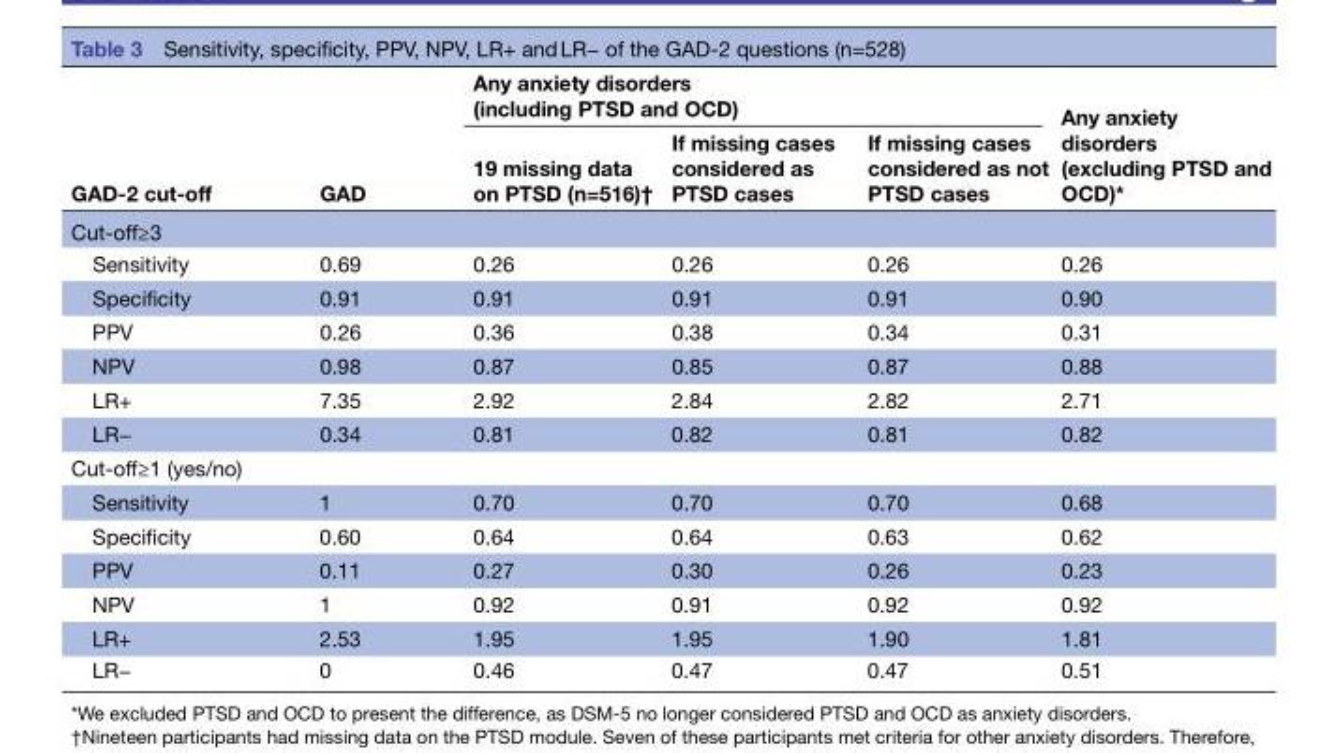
<table><thead><tr><td rowspan="2">GAD-2 cut-off</td><td rowspan="2">GAD</td><td colspan="3">Any anxiety disorders (including PTSD and OCD)</td><td rowspan="2">Any anxiety disorders (excluding PTSD and OCD)*</td></tr><tr><td>19 missing data on PTSD (n=516)†</td><td>If missing cases considered as PTSD cases</td><td>If missing cases considered as not PTSD cases</td></tr></thead><tbody><tr><td colspan="6">Cut-off≥3</td></tr><tr><td>Sensitivity</td><td>0.69</td><td>0.26</td><td>0.26</td><td>0.26</td><td>0.26</td></tr><tr><td>Specificity</td><td>0.91</td><td>0.91</td><td>0.91</td><td>0.91</td><td>0.90</td></tr><tr><td>PPV</td><td>0.26</td><td>0.36</td><td>0.38</td><td>0.34</td><td>0.31</td></tr><tr><td>NPV</td><td>0.98</td><td>0.87</td><td>0.85</td><td>0.87</td><td>0.88</td></tr><tr><td>LR+</td><td>7.35</td><td>2.92</td><td>2.84</td><td>2.82</td><td>2.71</td></tr><tr><td>LR−</td><td>0.34</td><td>0.81</td><td>0.82</td><td>0.81</td><td>0.82</td></tr><tr><td colspan="6">Cut-off≥1 (yes/no)</td></tr><tr><td>Sensitivity</td><td>1</td><td>0.70</td><td>0.70</td><td>0.70</td><td>0.68</td></tr><tr><td>Specificity</td><td>0.60</td><td>0.64</td><td>0.64</td><td>0.63</td><td>0.62</td></tr><tr><td>PPV</td><td>0.11</td><td>0.27</td><td>0.30</td><td>0.26</td><td>0.23</td></tr><tr><td>NPV</td><td>1</td><td>0.92</td><td>0.91</td><td>0.92</td><td>0.92</td></tr><tr><td>LR+</td><td>2.53</td><td>1.95</td><td>1.95</td><td>1.90</td><td>1.81</td></tr><tr><td>LR−</td><td>0</td><td>0.46</td><td>0.47</td><td>0.47</td><td>0.51</td></tr></tbody></table>